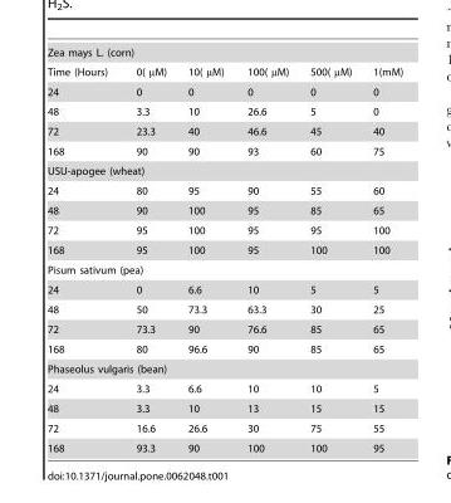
<table><tbody><tr><td colspan="6">Zea mays L. (corn)</td></tr><tr><td>Time (Hours)</td><td>0( µM)</td><td>10( µM)</td><td>100( µM)</td><td>500( µM)</td><td>1(mM)</td></tr><tr><td>24</td><td>0</td><td>0</td><td>0</td><td>0</td><td>0</td></tr><tr><td>48</td><td>3.3</td><td>10</td><td>26.6</td><td>5</td><td>0</td></tr><tr><td>72</td><td>23.3</td><td>40</td><td>46.6</td><td>45</td><td>40</td></tr><tr><td>168</td><td>90</td><td>90</td><td>93</td><td>60</td><td>75</td></tr><tr><td colspan="6">USU-apogee (wheat)</td></tr><tr><td>24</td><td>80</td><td>95</td><td>90</td><td>55</td><td>60</td></tr><tr><td>48</td><td>90</td><td>100</td><td>95</td><td>85</td><td>65</td></tr><tr><td>72</td><td>95</td><td>100</td><td>95</td><td>95</td><td>100</td></tr><tr><td>168</td><td>95</td><td>100</td><td>95</td><td>100</td><td>100</td></tr><tr><td colspan="6">Pisum sativum (pea)</td></tr><tr><td>24</td><td>0</td><td>6.6</td><td>10</td><td>5</td><td>5</td></tr><tr><td>48</td><td>50</td><td>73.3</td><td>63.3</td><td>30</td><td>25</td></tr><tr><td>72</td><td>73.3</td><td>90</td><td>76.6</td><td>85</td><td>65</td></tr><tr><td>168</td><td>80</td><td>96.6</td><td>90</td><td>85</td><td>65</td></tr><tr><td colspan="6">Phaseolus vulgaris (bean)</td></tr><tr><td>24</td><td>3.3</td><td>6.6</td><td>10</td><td>10</td><td>5</td></tr><tr><td>48</td><td>3.3</td><td>10</td><td>13</td><td>15</td><td>15</td></tr><tr><td>72</td><td>16.6</td><td>26.6</td><td>30</td><td>75</td><td>55</td></tr><tr><td>168</td><td>93.3</td><td>90</td><td>100</td><td>100</td><td>95</td></tr></tbody></table>